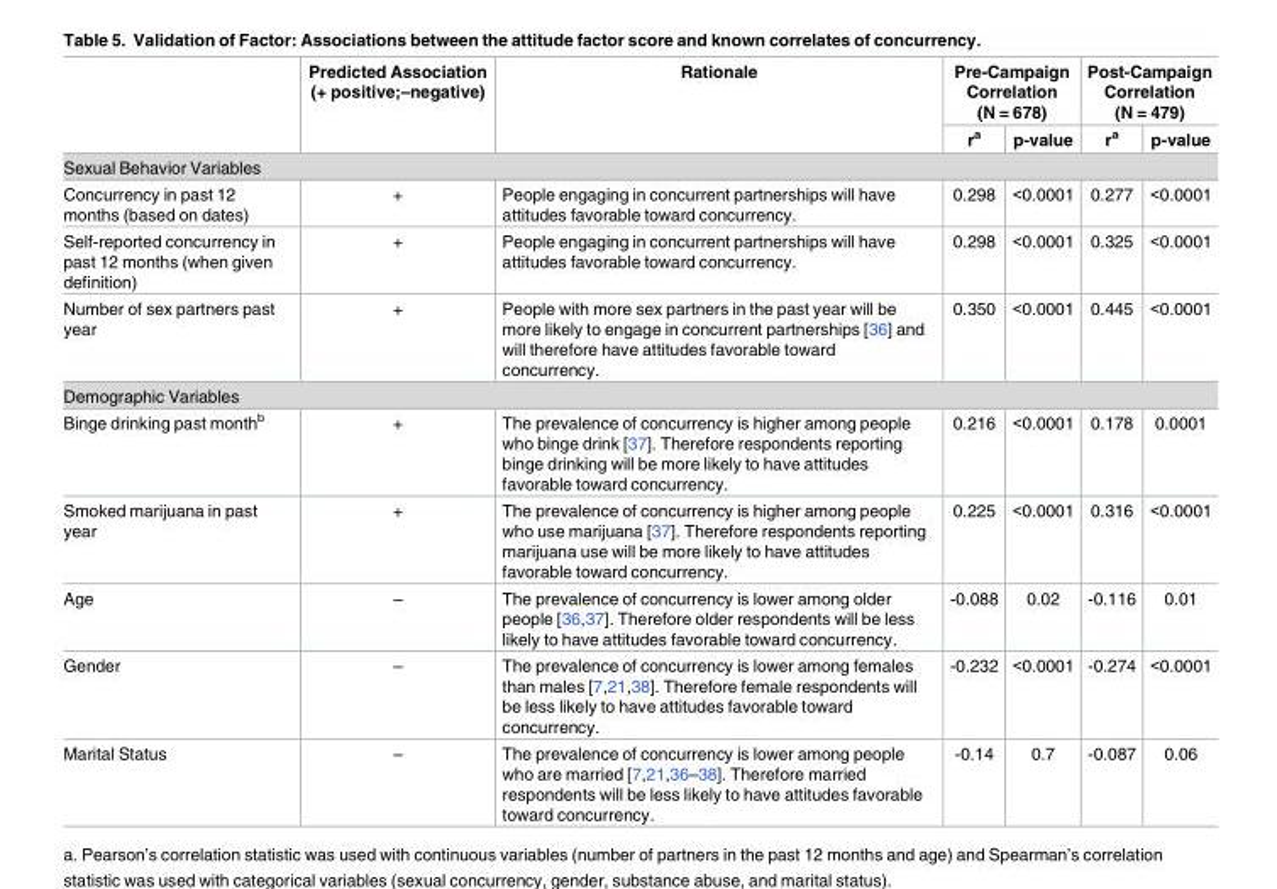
<table><thead><tr><td rowspan="2"></td><td rowspan="2">Predicted Association (+ positive;–negative)</td><td rowspan="2">Rationale</td><td colspan="2">Pre-Campaign Correlation (N = 678)</td><td colspan="2">Post-Campaign Correlation (N = 479)</td></tr><tr><td>r<sup>a</sup></td><td>p-value</td><td>r<sup>a</sup></td><td>p-value</td></tr></thead><tbody><tr><td colspan="7">Sexual Behavior Variables</td></tr><tr><td>Concurrency in past 12 months (based on dates)</td><td>+</td><td>People engaging in concurrent partnerships will have attitudes favorable toward concurrency.</td><td>0.298</td><td>&lt;0.0001</td><td>0.277</td><td>&lt;0.0001</td></tr><tr><td>Self-reported concurrency in past 12 months (when given definition)</td><td>+</td><td>People engaging in concurrent partnerships will have attitudes favorable toward concurrency.</td><td>0.298</td><td>&lt;0.0001</td><td>0.325</td><td>&lt;0.0001</td></tr><tr><td>Number of sex partners past year</td><td>+</td><td>People with more sex partners in the past year will be more likely to engage in concurrent partnerships [36] and will therefore have attitudes favorable toward concurrency.</td><td>0.350</td><td>&lt;0.0001</td><td>0.445</td><td>&lt;0.0001</td></tr><tr><td colspan="7">Demographic Variables</td></tr><tr><td>Binge drinking past month<sup>b</sup></td><td>+</td><td>The prevalence of concurrency is higher among people who binge drink [37]. Therefore respondents reporting binge drinking will be more likely to have attitudes favorable toward concurrency.</td><td>0.216</td><td>&lt;0.0001</td><td>0.178</td><td>0.0001</td></tr><tr><td>Smoked marijuana in past year</td><td>+</td><td>The prevalence of concurrency is higher among people who use marijuana [37]. Therefore respondents reporting marijuana use will be more likely to have attitudes favorable toward concurrency.</td><td>0.225</td><td>&lt;0.0001</td><td>0.316</td><td>&lt;0.0001</td></tr><tr><td>Age</td><td>–</td><td>The prevalence of concurrency is lower among older people [36,37]. Therefore older respondents will be less likely to have attitudes favorable toward concurrency.</td><td>-0.088</td><td>0.02</td><td>-0.116</td><td>0.01</td></tr><tr><td>Gender</td><td>–</td><td>The prevalence of concurrency is lower among females than males [7,21,38]. Therefore female respondents will be less likely to have attitudes favorable toward concurrency.</td><td>-0.232</td><td>&lt;0.0001</td><td>-0.274</td><td>&lt;0.0001</td></tr><tr><td>Marital Status</td><td>–</td><td>The prevalence of concurrency is lower among people who are married [7,21,36–38]. Therefore married respondents will be less likely to have attitudes favorable toward concurrency.</td><td>-0.14</td><td>0.7</td><td>-0.087</td><td>0.06</td></tr></tbody></table>